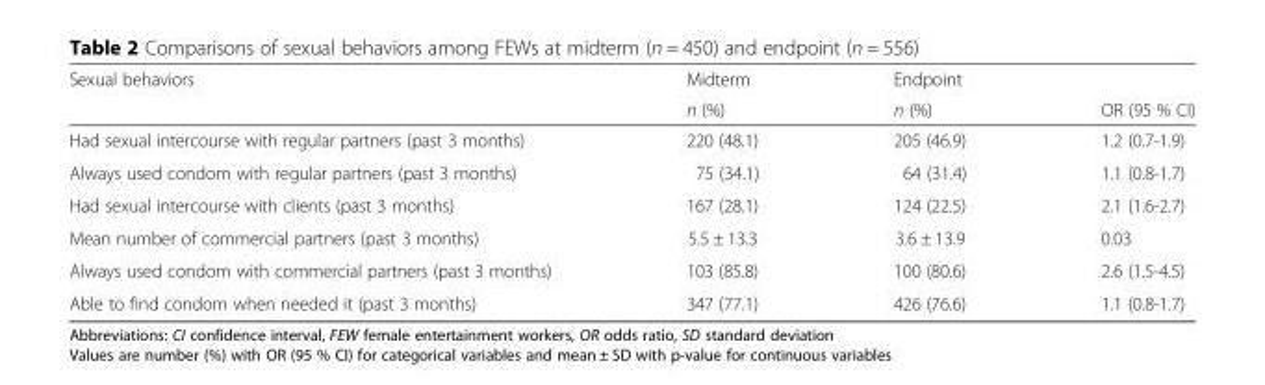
<table><thead><tr><td rowspan="2">Sexual behaviors</td><td rowspan="2">Midterm n (%)</td><td rowspan="2">Endpoint n (%)</td><td rowspan="2">OR (95 % CI)</td></tr><tr></tr></thead><tbody><tr><td>Had sexual intercourse with regular partners (past 3 months)</td><td>220 (48.1)</td><td>205 (46.9)</td><td>1.2 (0.7-1.9)</td></tr><tr><td>Always used condom with regular partners (past 3 months)</td><td>75 (34.1)</td><td>64 (31.4)</td><td>1.1 (0.8-1.7)</td></tr><tr><td>Had sexual intercourse with clients (past 3 months)</td><td>167 (28.1)</td><td>124 (22.5)</td><td>2.1 (1.6-2.7)</td></tr><tr><td>Mean number of commercial partners (past 3 months)</td><td>5.5 ± 13.3</td><td>3.6 ± 13.9</td><td>0.03</td></tr><tr><td>Always used condom with commercial partners (past 3 months)</td><td>103 (85.8)</td><td>100 (80.6)</td><td>2.6 (1.5-4.5)</td></tr><tr><td>Able to find condom when needed it (past 3 months)</td><td>347 (77.1)</td><td>426 (76.6)</td><td>1.1 (0.8-1.7)</td></tr></tbody></table>